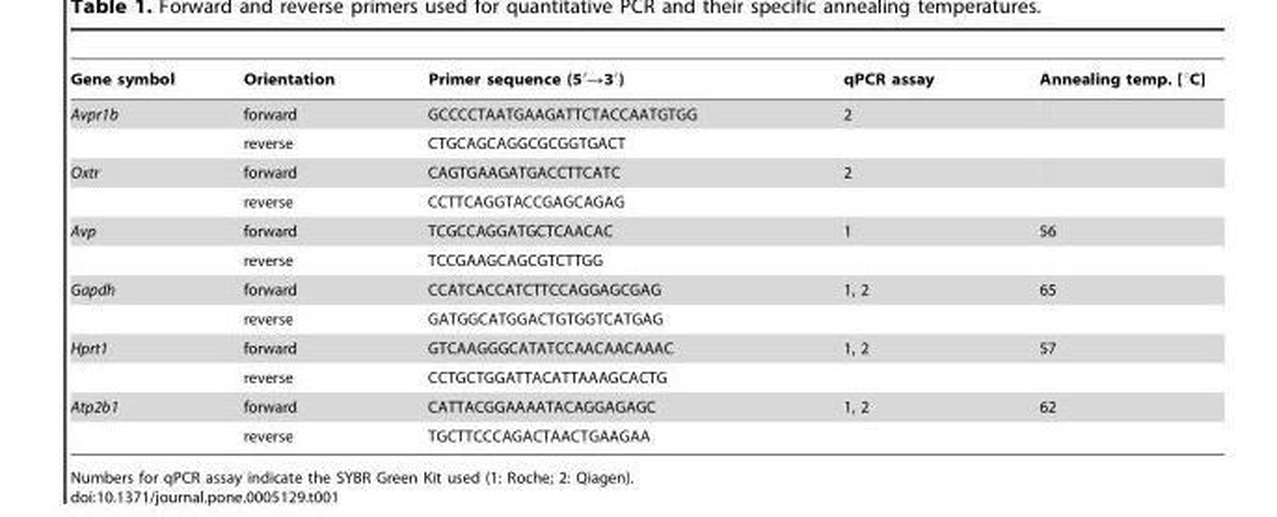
<table><thead><tr><td>Gene symbol</td><td>Orientation</td><td>Primer sequence (5′→3′)</td><td>qPCR assay</td><td>Annealing temp. [°C]</td></tr></thead><tbody><tr><td rowspan="2">Avpr1b</td><td>forward</td><td>GCCCCTAATGAAGATTCTACCAATGTGG</td><td>2</td><td></td></tr><tr><td>reverse</td><td>CTGCAGCAGGCGCGGTGACT</td><td></td><td></td></tr><tr><td rowspan="2">Oxtr</td><td>forward</td><td>CAGTGAAGATGACCTTCATC</td><td>2</td><td></td></tr><tr><td>reverse</td><td>CCTTCAGGTACCGAGCAGAG</td><td></td><td></td></tr><tr><td rowspan="2">Avp</td><td>forward</td><td>TCGCCAGGATGCTCAACAC</td><td>1</td><td>56</td></tr><tr><td>reverse</td><td>TCCGAAGCAGCGTCTTGG</td><td></td><td></td></tr><tr><td rowspan="2">Gapdh</td><td>forward</td><td>CCATCACCATCTTCCAGGAGCGAG</td><td>1, 2</td><td>65</td></tr><tr><td>reverse</td><td>GATGGCATGGACTGTGGTCATGAG</td><td></td><td></td></tr><tr><td rowspan="2">Hprt1</td><td>forward</td><td>GTCAAGGGCATATCCAACAACAAAC</td><td>1, 2</td><td>57</td></tr><tr><td>reverse</td><td>CCTGCTGGATTACATTAAAGCACTG</td><td></td><td></td></tr><tr><td rowspan="2">Atp2b1</td><td>forward</td><td>CATTACGGAAAATACAGGAGAGC</td><td>1, 2</td><td>62</td></tr><tr><td>reverse</td><td>TGCTTCCCAGACTAACTGAAGAA</td><td></td><td></td></tr></tbody></table>